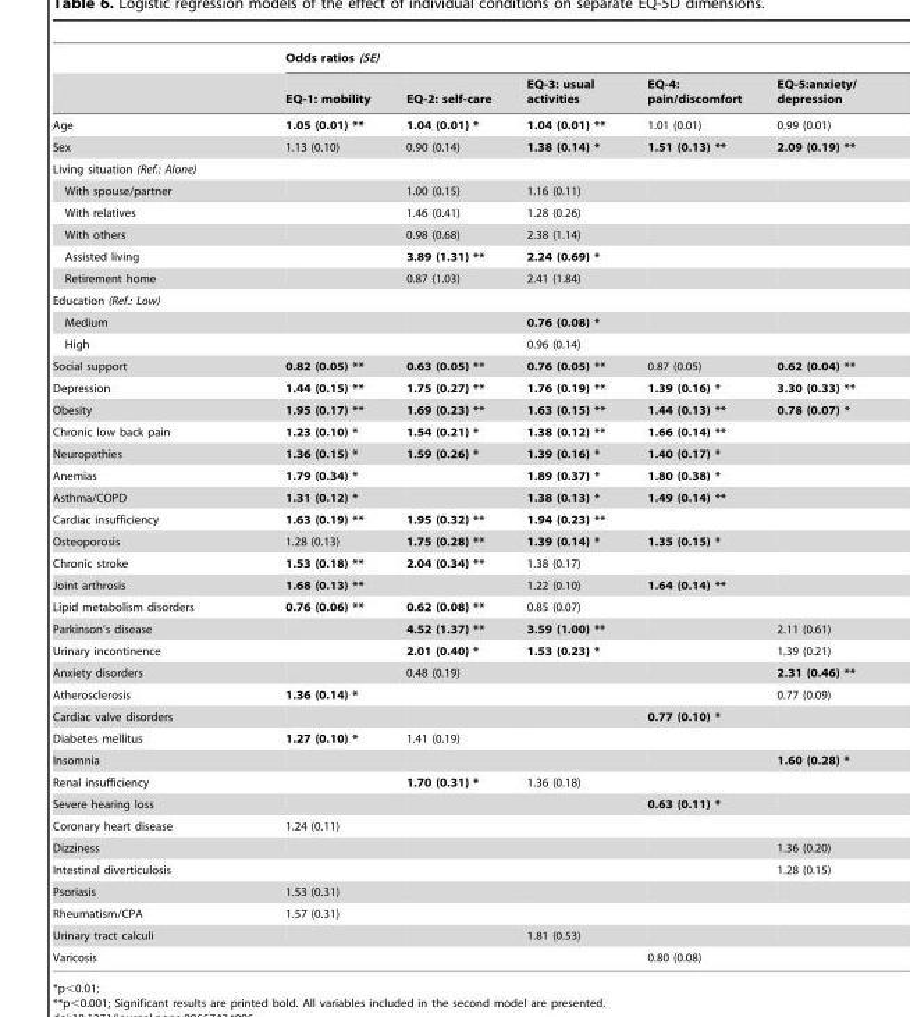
<table><thead><tr><td rowspan="2"></td><td colspan="5">Odds ratios (SE)</td></tr><tr><td>EQ-1: mobility</td><td>EQ-2: self-care</td><td>EQ-3: usual activities</td><td>EQ-4: pain/discomfort</td><td>EQ-5:anxiety/ depression</td></tr></thead><tbody><tr><td>Age</td><td>1.05 (0.01) **</td><td>1.04 (0.01) *</td><td>1.04 (0.01) **</td><td>1.01 (0.01)</td><td>0.99 (0.01)</td></tr><tr><td>Sex</td><td>1.13 (0.10)</td><td>0.90 (0.14)</td><td>1.38 (0.14) *</td><td>1.51 (0.13) **</td><td>2.09 (0.19) **</td></tr><tr><td colspan="6">Living situation (Ref.: Alone)</td></tr><tr><td>With spouse/partner</td><td></td><td>1.00 (0.15)</td><td>1.16 (0.11)</td><td></td><td></td></tr><tr><td>With relatives</td><td></td><td>1.46 (0.41)</td><td>1.28 (0.26)</td><td></td><td></td></tr><tr><td>With others</td><td></td><td>0.98 (0.68)</td><td>2.38 (1.14)</td><td></td><td></td></tr><tr><td>Assisted living</td><td></td><td>3.89 (1.31) **</td><td>2.24 (0.69) *</td><td></td><td></td></tr><tr><td>Retirement home</td><td></td><td>0.87 (1.03)</td><td>2.41 (1.84)</td><td></td><td></td></tr><tr><td colspan="6">Education (Ref.: Low)</td></tr><tr><td>Medium</td><td></td><td></td><td>0.76 (0.08) *</td><td></td><td></td></tr><tr><td>High</td><td></td><td></td><td>0.96 (0.14)</td><td></td><td></td></tr><tr><td>Social support</td><td>0.82 (0.05) **</td><td>0.63 (0.05) **</td><td>0.76 (0.05) **</td><td>0.87 (0.05)</td><td>0.62 (0.04) **</td></tr><tr><td>Depression</td><td>1.44 (0.15) **</td><td>1.75 (0.27) **</td><td>1.76 (0.19) **</td><td>1.39 (0.16) *</td><td>3.30 (0.33) **</td></tr><tr><td>Obesity</td><td>1.95 (0.17) **</td><td>1.69 (0.23) **</td><td>1.63 (0.15) **</td><td>1.44 (0.13) **</td><td>0.78 (0.07) *</td></tr><tr><td>Chronic low back pain</td><td>1.23 (0.10) *</td><td>1.54 (0.21) *</td><td>1.38 (0.12) **</td><td>1.66 (0.14) **</td><td></td></tr><tr><td>Neuropathies</td><td>1.36 (0.15) *</td><td>1.59 (0.26) *</td><td>1.39 (0.16) *</td><td>1.40 (0.17) *</td><td></td></tr><tr><td>Anemias</td><td>1.79 (0.34) *</td><td></td><td>1.89 (0.37) *</td><td>1.80 (0.38) *</td><td></td></tr><tr><td>Asthma/COPD</td><td>1.31 (0.12) *</td><td></td><td>1.38 (0.13) *</td><td>1.49 (0.14) **</td><td></td></tr><tr><td>Cardiac insufficiency</td><td>1.63 (0.19) **</td><td>1.95 (0.32) **</td><td>1.94 (0.23) **</td><td></td><td></td></tr><tr><td>Osteoporosis</td><td>1.28 (0.13)</td><td>1.75 (0.28) **</td><td>1.39 (0.14) *</td><td>1.35 (0.15) *</td><td></td></tr><tr><td>Chronic stroke</td><td>1.53 (0.18) **</td><td>2.04 (0.34) **</td><td>1.38 (0.17)</td><td></td><td></td></tr><tr><td>Joint arthrosis</td><td>1.68 (0.13) **</td><td></td><td>1.22 (0.10)</td><td>1.64 (0.14) **</td><td></td></tr><tr><td>Lipid metabolism disorders</td><td>0.76 (0.06) **</td><td>0.62 (0.08) **</td><td>0.85 (0.07)</td><td></td><td></td></tr><tr><td>Parkinson’s disease</td><td></td><td>4.52 (1.37) **</td><td>3.59 (1.00) **</td><td></td><td>2.11 (0.61)</td></tr><tr><td>Urinary incontinence</td><td></td><td>2.01 (0.40) *</td><td>1.53 (0.23) *</td><td></td><td>1.39 (0.21)</td></tr><tr><td>Anxiety disorders</td><td></td><td>0.48 (0.19)</td><td></td><td></td><td>2.31 (0.46) **</td></tr><tr><td>Atherosclerosis</td><td>1.36 (0.14) *</td><td></td><td></td><td></td><td>0.77 (0.09)</td></tr><tr><td>Cardiac valve disorders</td><td></td><td></td><td></td><td>0.77 (0.10) *</td><td></td></tr><tr><td>Diabetes mellitus</td><td>1.27 (0.10) *</td><td>1.41 (0.19)</td><td></td><td></td><td></td></tr><tr><td>Insomnia</td><td></td><td></td><td></td><td></td><td>1.60 (0.28) *</td></tr><tr><td>Renal insufficiency</td><td></td><td>1.70 (0.31) *</td><td>1.36 (0.18)</td><td></td><td></td></tr><tr><td>Severe hearing loss</td><td></td><td></td><td></td><td>0.63 (0.11) *</td><td></td></tr><tr><td>Coronary heart disease</td><td>1.24 (0.11)</td><td></td><td></td><td></td><td></td></tr><tr><td>Dizziness</td><td></td><td></td><td></td><td></td><td>1.36 (0.20)</td></tr><tr><td>Intestinal diverticulosis</td><td></td><td></td><td></td><td></td><td>1.28 (0.15)</td></tr><tr><td>Psoriasis</td><td>1.53 (0.31)</td><td></td><td></td><td></td><td></td></tr><tr><td>Rheumatism/CPA</td><td>1.57 (0.31)</td><td></td><td></td><td></td><td></td></tr><tr><td>Urinary tract calculi</td><td></td><td></td><td>1.81 (0.53)</td><td></td><td></td></tr><tr><td>Varicosis</td><td></td><td></td><td></td><td>0.80 (0.08)</td><td></td></tr></tbody></table>